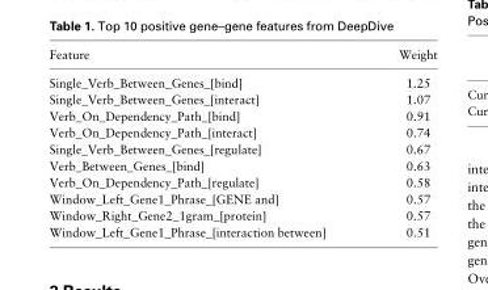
<table><thead><tr><td>Feature</td><td>Weight</td></tr></thead><tbody><tr><td>Single_Verb_Between_Genes_[bind]</td><td>1.25</td></tr><tr><td>Single_Verb_Between_Genes_[interact]</td><td>1.07</td></tr><tr><td>Verb_On_Dependency_Path_[bind]</td><td>0.91</td></tr><tr><td>Verb_On_Dependency_Path_[interact]</td><td>0.74</td></tr><tr><td>Single_Verb_Between_Genes_[regulate]</td><td>0.67</td></tr><tr><td>Verb_Between_Genes_[bind]</td><td>0.63</td></tr><tr><td>Verb_On_Dependency_Path_[regulate]</td><td>0.58</td></tr><tr><td>Window_Left_Gene1_Phrase_[GENE and]</td><td>0.57</td></tr><tr><td>Window_Right_Gene2_1gram_[protein]</td><td>0.57</td></tr><tr><td>Window_Left_Gene1_Phrase_[interaction between]</td><td>0.51</td></tr></tbody></table>